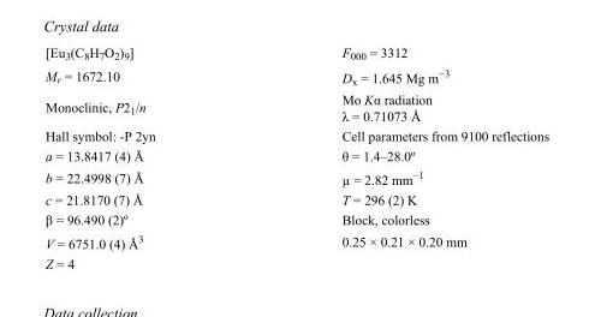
<table><tbody><tr><td>[Eu<sub>3</sub>(C<sub>8</sub>H<sub>7</sub>O<sub>2</sub>)<sub>9</sub>]</td><td>F<sub>000</sub> = 3312</td></tr><tr><td>M<sub>r</sub> = 1672.10</td><td>D<sub>x</sub> = 1.645 Mg m<sup>−3</sup></td></tr><tr><td>Monoclinic, P2<sub>1</sub>/n</td><td>Mo Kα radiation λ = 0.71073 Å</td></tr><tr><td>Hall symbol: -P 2yn</td><td>Cell parameters from 9100 reflections</td></tr><tr><td>a = 13.8417 (4) Å</td><td>θ = 1.4–28.0º</td></tr><tr><td>b = 22.4998 (7) Å</td><td>µ = 2.82 mm<sup>−1</sup></td></tr><tr><td>c = 21.8170 (7) Å</td><td>T = 296 (2) K</td></tr><tr><td>β = 96.490 (2)º</td><td>Block, colorless</td></tr><tr><td>V = 6751.0 (4) Å<sup>3</sup></td><td>0.25 × 0.21 × 0.20 mm</td></tr><tr><td>Z = 4</td><td></td></tr></tbody></table>